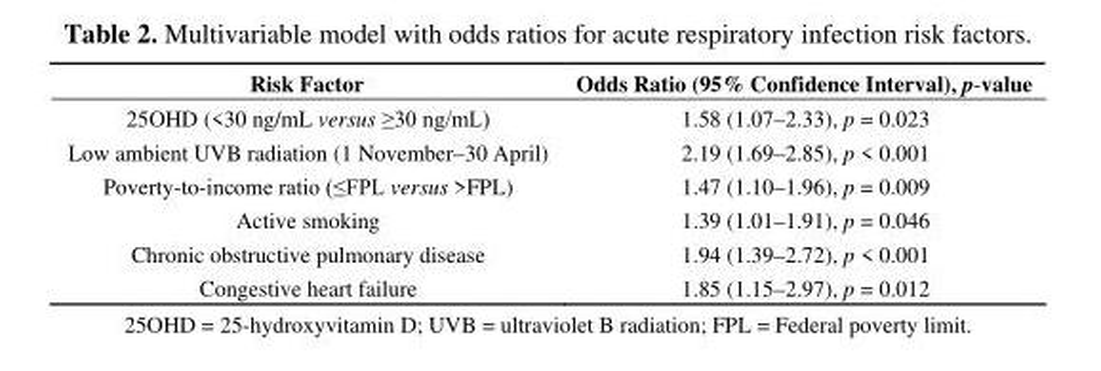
<table><thead><tr><td>Risk Factor</td><td>Odds Ratio (95% Confidence Interval), p-value</td></tr></thead><tbody><tr><td>25OHD (&lt;30 ng/mL versus ≥30 ng/mL)</td><td>1.58 (1.07–2.33), p = 0.023</td></tr><tr><td>Low ambient UVB radiation (1 November–30 April)</td><td>2.19 (1.69–2.85), p &lt; 0.001</td></tr><tr><td>Poverty-to-income ratio (≤FPL versus &gt;FPL)</td><td>1.47 (1.10–1.96), p = 0.009</td></tr><tr><td>Active smoking</td><td>1.39 (1.01–1.91), p = 0.046</td></tr><tr><td>Chronic obstructive pulmonary disease</td><td>1.94 (1.39–2.72), p &lt; 0.001</td></tr><tr><td>Congestive heart failure</td><td>1.85 (1.15–2.97), p = 0.012</td></tr></tbody></table>